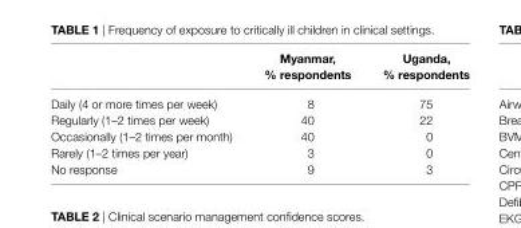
<table><thead><tr><td></td><td>Myanmar, % respondents</td><td>Uganda, % respondents</td></tr></thead><tbody><tr><td>Daily (4 or more times per week)</td><td>8</td><td>75</td></tr><tr><td>Regularly (1–2 times per week)</td><td>40</td><td>22</td></tr><tr><td>Occasionally (1–2 times per month)</td><td>40</td><td>0</td></tr><tr><td>Rarely (1–2 times per year)</td><td>3</td><td>0</td></tr><tr><td>No response</td><td>9</td><td>3</td></tr></tbody></table>